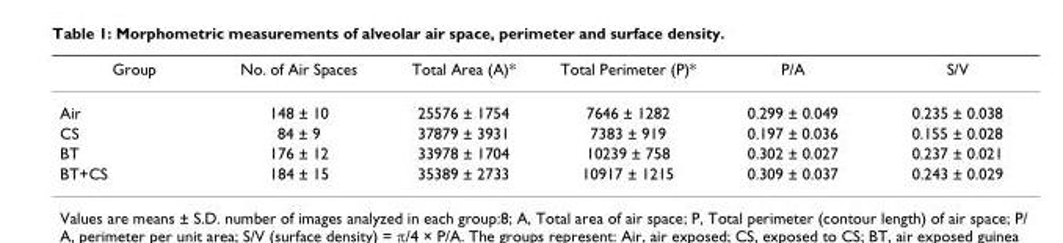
<table><thead><tr><td>Group</td><td>No. of Air Spaces</td><td>Total Area (A)*</td><td>Total Perimeter (P)*</td><td>P/A</td><td>S/V</td></tr></thead><tbody><tr><td>Air</td><td>148 ± 10</td><td>25576 ± 1754</td><td>7646 ± 1282</td><td>0.299 ± 0.049</td><td>0.235 ± 0.038</td></tr><tr><td>CS</td><td>84 ± 9</td><td>37879 ± 3931</td><td>7383 ± 919</td><td>0.197 ± 0.036</td><td>0.155 ± 0.028</td></tr><tr><td>BT</td><td>176 ± 12</td><td>33978 ± 1704</td><td>10239 ± 758</td><td>0.302 ± 0.027</td><td>0.237 ± 0.021</td></tr><tr><td>BT+CS</td><td>184 ± 15</td><td>35389 ± 2733</td><td>10917 ± 1215</td><td>0.309 ± 0.037</td><td>0.243 ± 0.029</td></tr></tbody></table>